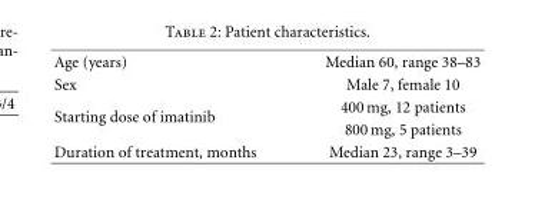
<table><tbody><tr><td>Age (years)</td><td>Median 60, range 38–83</td></tr><tr><td>Sex</td><td>Male 7, female 10</td></tr><tr><td rowspan="2">Starting dose of imatinib</td><td>400 mg, 12 patients</td></tr><tr><td>800 mg, 5 patients</td></tr><tr><td>Duration of treatment, months</td><td>Median 23, range 3–39</td></tr></tbody></table>